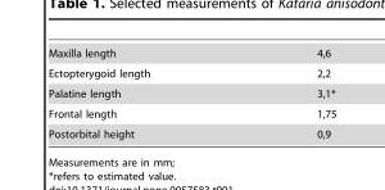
<table><tbody><tr><td>Maxilla length</td><td>4,6</td></tr><tr><td>Ectopterygoid length</td><td>2,2</td></tr><tr><td>Palatine length</td><td>3,1*</td></tr><tr><td>Frontal length</td><td>1,75</td></tr><tr><td>Postorbital height</td><td>0,9</td></tr></tbody></table>